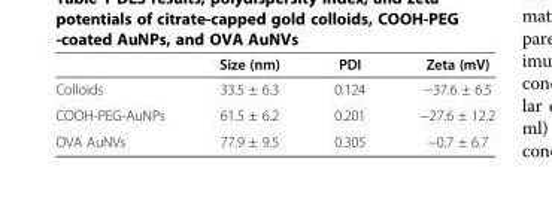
<table><thead><tr><td></td><td>Size (nm)</td><td>PDI</td><td>Zeta (mV)</td></tr></thead><tbody><tr><td>Colloids</td><td>33.5 ± 6.3</td><td>0.124</td><td>−37.6 ± 6.5</td></tr><tr><td>COOH-PEG-AuNPs</td><td>61.5 ± 6.2</td><td>0.201</td><td>−27.6 ± 12.2</td></tr><tr><td>OVA AuNVs</td><td>77.9 ± 9.5</td><td>0.305</td><td>−0.7 ± 6.7</td></tr></tbody></table>